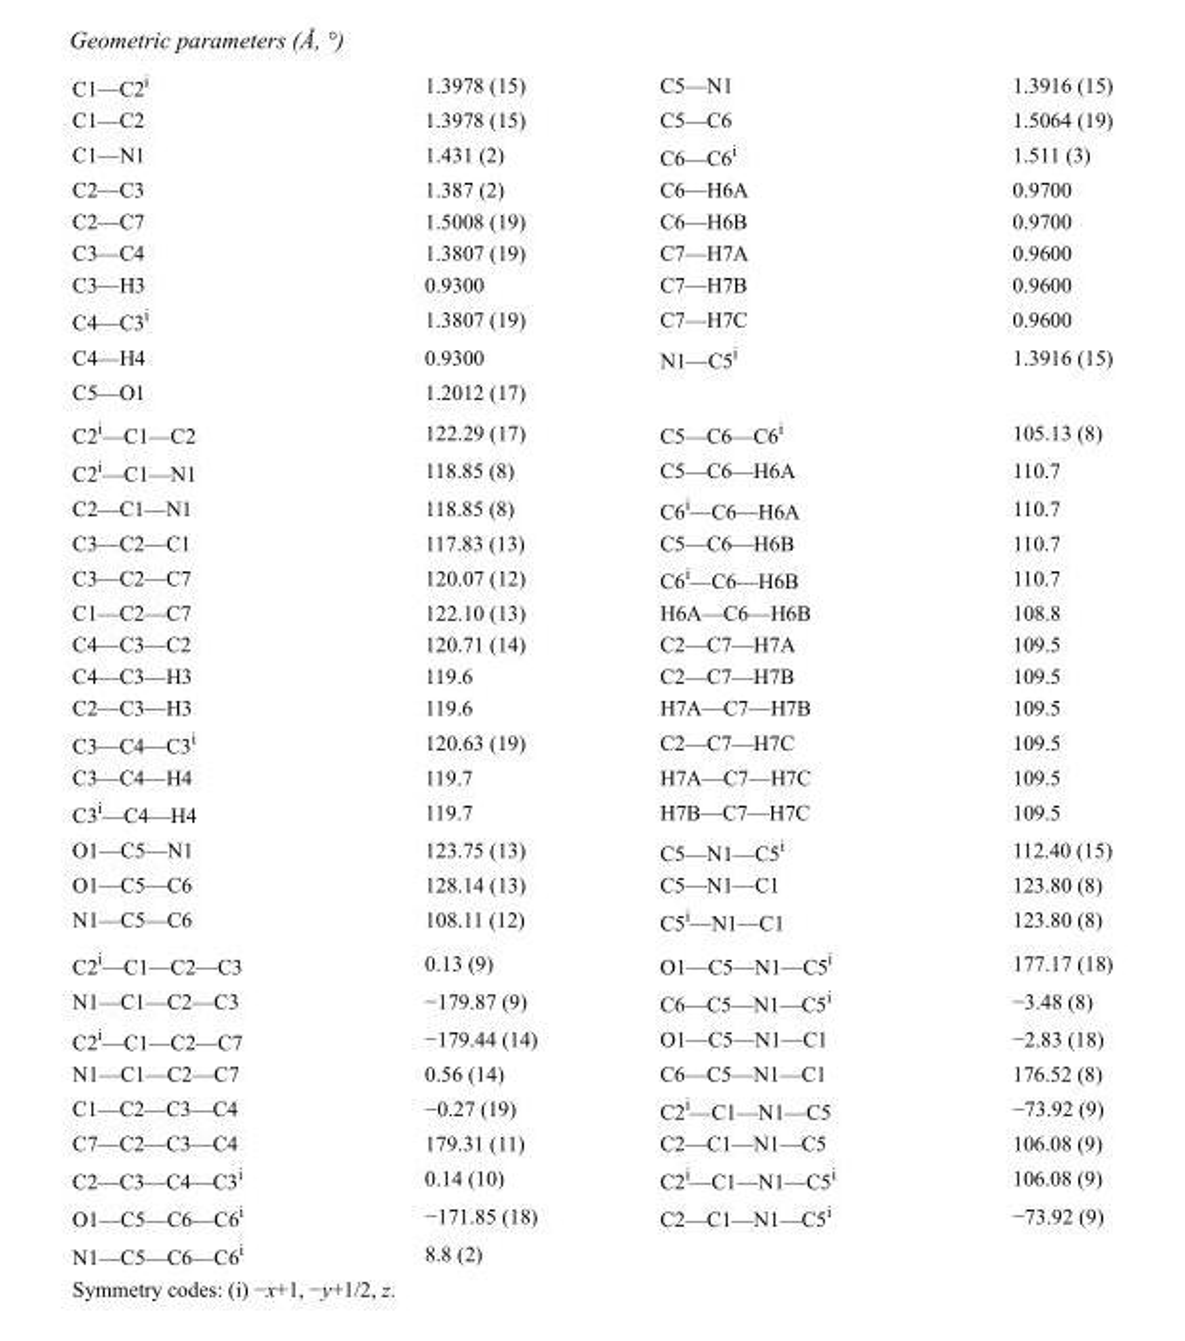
<table><tbody><tr><td>C1—C2<sup>i</sup></td><td>1.3978 (15)</td><td>C5—N1</td><td>1.3916 (15)</td></tr><tr><td>C1—C2</td><td>1.3978 (15)</td><td>C5—C6</td><td>1.5064 (19)</td></tr><tr><td>C1—N1</td><td>1.431 (2)</td><td>C6—C6<sup>i</sup></td><td>1.511 (3)</td></tr><tr><td>C2—C3</td><td>1.387 (2)</td><td>C6—H6A</td><td>0.9700</td></tr><tr><td>C2—C7</td><td>1.5008 (19)</td><td>C6—H6B</td><td>0.9700</td></tr><tr><td>C3—C4</td><td>1.3807 (19)</td><td>C7—H7A</td><td>0.9600</td></tr><tr><td>C3—H3</td><td>0.9300</td><td>C7—H7B</td><td>0.9600</td></tr><tr><td>C4—C3<sup>i</sup></td><td>1.3807 (19)</td><td>C7—H7C</td><td>0.9600</td></tr><tr><td>C4—H4</td><td>0.9300</td><td>N1—C5<sup>i</sup></td><td>1.3916 (15)</td></tr><tr><td>C5—O1</td><td>1.2012 (17)</td><td></td><td></td></tr><tr><td>C2<sup>i</sup>—C1—C2</td><td>122.29 (17)</td><td>C5—C6—C6<sup>i</sup></td><td>105.13 (8)</td></tr><tr><td>C2<sup>i</sup>—C1—N1</td><td>118.85 (8)</td><td>C5—C6—H6A</td><td>110.7</td></tr><tr><td>C2—C1—N1</td><td>118.85 (8)</td><td>C6<sup>i</sup>—C6—H6A</td><td>110.7</td></tr><tr><td>C3—C2—C1</td><td>117.83 (13)</td><td>C5—C6—H6B</td><td>110.7</td></tr><tr><td>C3—C2—C7</td><td>120.07 (12)</td><td>C6<sup>i</sup>—C6—H6B</td><td>110.7</td></tr><tr><td>C1—C2—C7</td><td>122.10 (13)</td><td>H6A—C6—H6B</td><td>108.8</td></tr><tr><td>C4—C3—C2</td><td>120.71 (14)</td><td>C2—C7—H7A</td><td>109.5</td></tr><tr><td>C4—C3—H3</td><td>119.6</td><td>C2—C7—H7B</td><td>109.5</td></tr><tr><td>C2—C3—H3</td><td>119.6</td><td>H7A—C7—H7B</td><td>109.5</td></tr><tr><td>C3—C4—C3<sup>i</sup></td><td>120.63 (19)</td><td>C2—C7—H7C</td><td>109.5</td></tr><tr><td>C3—C4—H4</td><td>119.7</td><td>H7A—C7—H7C</td><td>109.5</td></tr><tr><td>C3<sup>i</sup>—C4—H4</td><td>119.7</td><td>H7B—C7—H7C</td><td>109.5</td></tr><tr><td>O1—C5—N1</td><td>123.75 (13)</td><td>C5—N1—C5<sup>i</sup></td><td>112.40 (15)</td></tr><tr><td>O1—C5—C6</td><td>128.14 (13)</td><td>C5—N1—C1</td><td>123.80 (8)</td></tr><tr><td>N1—C5—C6</td><td>108.11 (12)</td><td>C5<sup>i</sup>—N1—C1</td><td>123.80 (8)</td></tr><tr><td>C2<sup>i</sup>—C1—C2—C3</td><td>0.13 (9)</td><td>O1—C5—N1—C5<sup>i</sup></td><td>177.17 (18)</td></tr><tr><td>N1—C1—C2—C3</td><td>−179.87 (9)</td><td>C6—C5—N1—C5<sup>i</sup></td><td>−3.48 (8)</td></tr><tr><td>C2<sup>i</sup>—C1—C2—C7</td><td>−179.44 (14)</td><td>O1—C5—N1—C1</td><td>−2.83 (18)</td></tr><tr><td>N1—C1—C2—C7</td><td>0.56 (14)</td><td>C6—C5—N1—C1</td><td>176.52 (8)</td></tr><tr><td>C1—C2—C3—C4</td><td>−0.27 (19)</td><td>C2<sup>i</sup>—C1—N1—C5</td><td>−73.92 (9)</td></tr><tr><td>C7—C2—C3—C4</td><td>179.31 (11)</td><td>C2—C1—N1—C5</td><td>106.08 (9)</td></tr><tr><td>C2—C3—C4—C3<sup>i</sup></td><td>0.14 (10)</td><td>C2<sup>i</sup>—C1—N1—C5<sup>i</sup></td><td>106.08 (9)</td></tr><tr><td>O1—C5—C6—C6<sup>i</sup></td><td>−171.85 (18)</td><td>C2—C1—N1—C5<sup>i</sup></td><td>−73.92 (9)</td></tr><tr><td>N1—C5—C6—C6<sup>i</sup></td><td>8.8 (2)</td><td></td><td></td></tr></tbody></table>